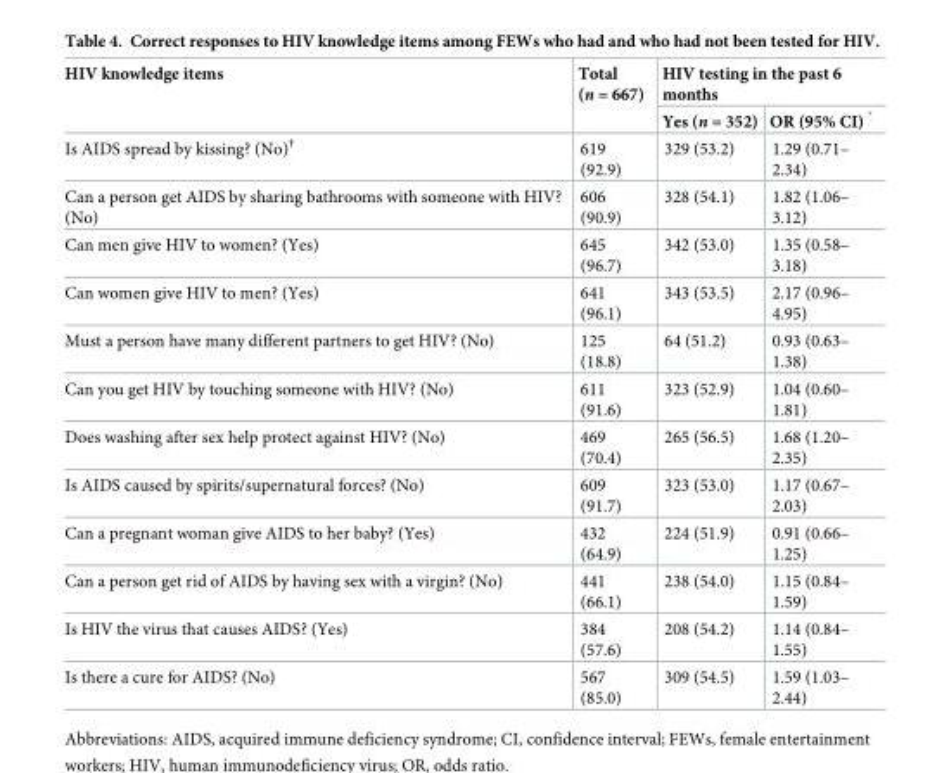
<table><thead><tr><td rowspan="2">HIV knowledge items</td><td rowspan="2">Total (n = 667)</td><td colspan="2">HIV testing in the past 6 months</td></tr><tr><td>Yes (n = 352)</td><td>OR (95% CI)</td></tr></thead><tbody><tr><td>Is AIDS spread by kissing? (No)<sup>†</sup></td><td>619 (92.9)</td><td>329 (53.2)</td><td>1.29 (0.71– 2.34)</td></tr><tr><td>Can a person get AIDS by sharing bathrooms with someone with HIV? (No)</td><td>606 (90.9)</td><td>328 (54.1)</td><td>1.82 (1.06– 3.12)</td></tr><tr><td>Can men give HIV to women? (Yes)</td><td>645 (96.7)</td><td>342 (53.0)</td><td>1.35 (0.58– 3.18)</td></tr><tr><td>Can women give HIV to men? (Yes)</td><td>641 (96.1)</td><td>343 (53.5)</td><td>2.17 (0.96– 4.95)</td></tr><tr><td>Must a person have many different partners to get HIV? (No)</td><td>125 (18.8)</td><td>64 (51.2)</td><td>0.93 (0.63– 1.38)</td></tr><tr><td>Can you get HIV by touching someone with HIV? (No)</td><td>611 (91.6)</td><td>323 (52.9)</td><td>1.04 (0.60– 1.81)</td></tr><tr><td>Does washing after sex help protect against HIV? (No)</td><td>469 (70.4)</td><td>265 (56.5)</td><td>1.68 (1.20– 2.35)</td></tr><tr><td>Is AIDS caused by spirits/supernatural forces? (No)</td><td>609 (91.7)</td><td>323 (53.0)</td><td>1.17 (0.67– 2.03)</td></tr><tr><td>Can a pregnant woman give AIDS to her baby? (Yes)</td><td>432 (64.9)</td><td>224 (51.9)</td><td>0.91 (0.66– 1.25)</td></tr><tr><td>Can a person get rid of AIDS by having sex with a virgin? (No)</td><td>441 (66.1)</td><td>238 (54.0)</td><td>1.15 (0.84– 1.59)</td></tr><tr><td>Is HIV the virus that causes AIDS? (Yes)</td><td>384 (57.6)</td><td>208 (54.2)</td><td>1.14 (0.84– 1.55)</td></tr><tr><td>Is there a cure for AIDS? (No)</td><td>567 (85.0)</td><td>309 (54.5)</td><td>1.59 (1.03– 2.44)</td></tr></tbody></table>